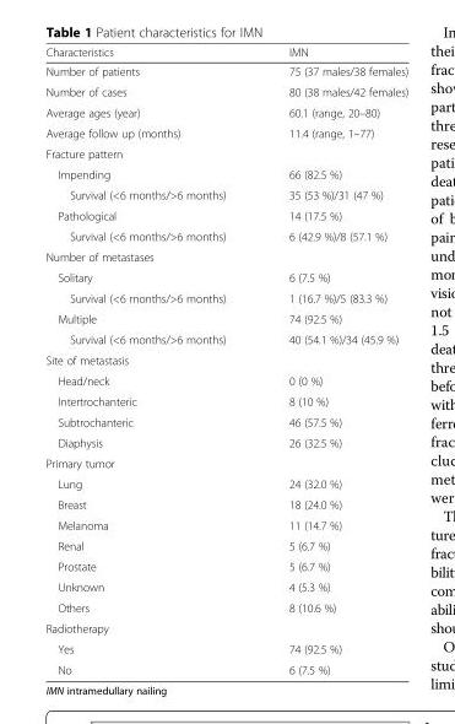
<table><thead><tr><td>Characteristics</td><td>IMN</td></tr></thead><tbody><tr><td>Number of patients</td><td>75 (37 males/38 females)</td></tr><tr><td>Number of cases</td><td>80 (38 males/42 females)</td></tr><tr><td>Average ages (year)</td><td>60.1 (range, 20–80)</td></tr><tr><td>Average follow up (months)</td><td>11.4 (range, 1–77)</td></tr><tr><td colspan="2">Fracture pattern</td></tr><tr><td>Impending</td><td>66 (82.5 %)</td></tr><tr><td>Survival (&lt;6 months/&gt;6 months)</td><td>35 (53 %)/31 (47 %)</td></tr><tr><td>Pathological</td><td>14 (17.5 %)</td></tr><tr><td>Survival (&lt;6 months/&gt;6 months)</td><td>6 (42.9 %)/8 (57.1 %)</td></tr><tr><td colspan="2">Number of metastases</td></tr><tr><td>Solitary</td><td>6 (7.5 %)</td></tr><tr><td>Survival (&lt;6 months/&gt;6 months)</td><td>1 (16.7 %)/5 (83.3 %)</td></tr><tr><td>Multiple</td><td>74 (92.5 %)</td></tr><tr><td>Survival (&lt;6 months/&gt;6 months)</td><td>40 (54.1 %)/34 (45.9 %)</td></tr><tr><td colspan="2">Site of metastasis</td></tr><tr><td>Head/neck</td><td>0 (0 %)</td></tr><tr><td>Intertrochanteric</td><td>8 (10 %)</td></tr><tr><td>Subtrochanteric</td><td>46 (57.5 %)</td></tr><tr><td>Diaphysis</td><td>26 (32.5 %)</td></tr><tr><td colspan="2">Primary tumor</td></tr><tr><td>Lung</td><td>24 (32.0 %)</td></tr><tr><td>Breast</td><td>18 (24.0 %)</td></tr><tr><td>Melanoma</td><td>11 (14.7 %)</td></tr><tr><td>Renal</td><td>5 (6.7 %)</td></tr><tr><td>Prostate</td><td>5 (6.7 %)</td></tr><tr><td>Unknown</td><td>4 (5.3 %)</td></tr><tr><td>Others</td><td>8 (10.6 %)</td></tr><tr><td colspan="2">Radiotherapy</td></tr><tr><td>Yes</td><td>74 (92.5 %)</td></tr><tr><td>No</td><td>6 (7.5 %)</td></tr></tbody></table>